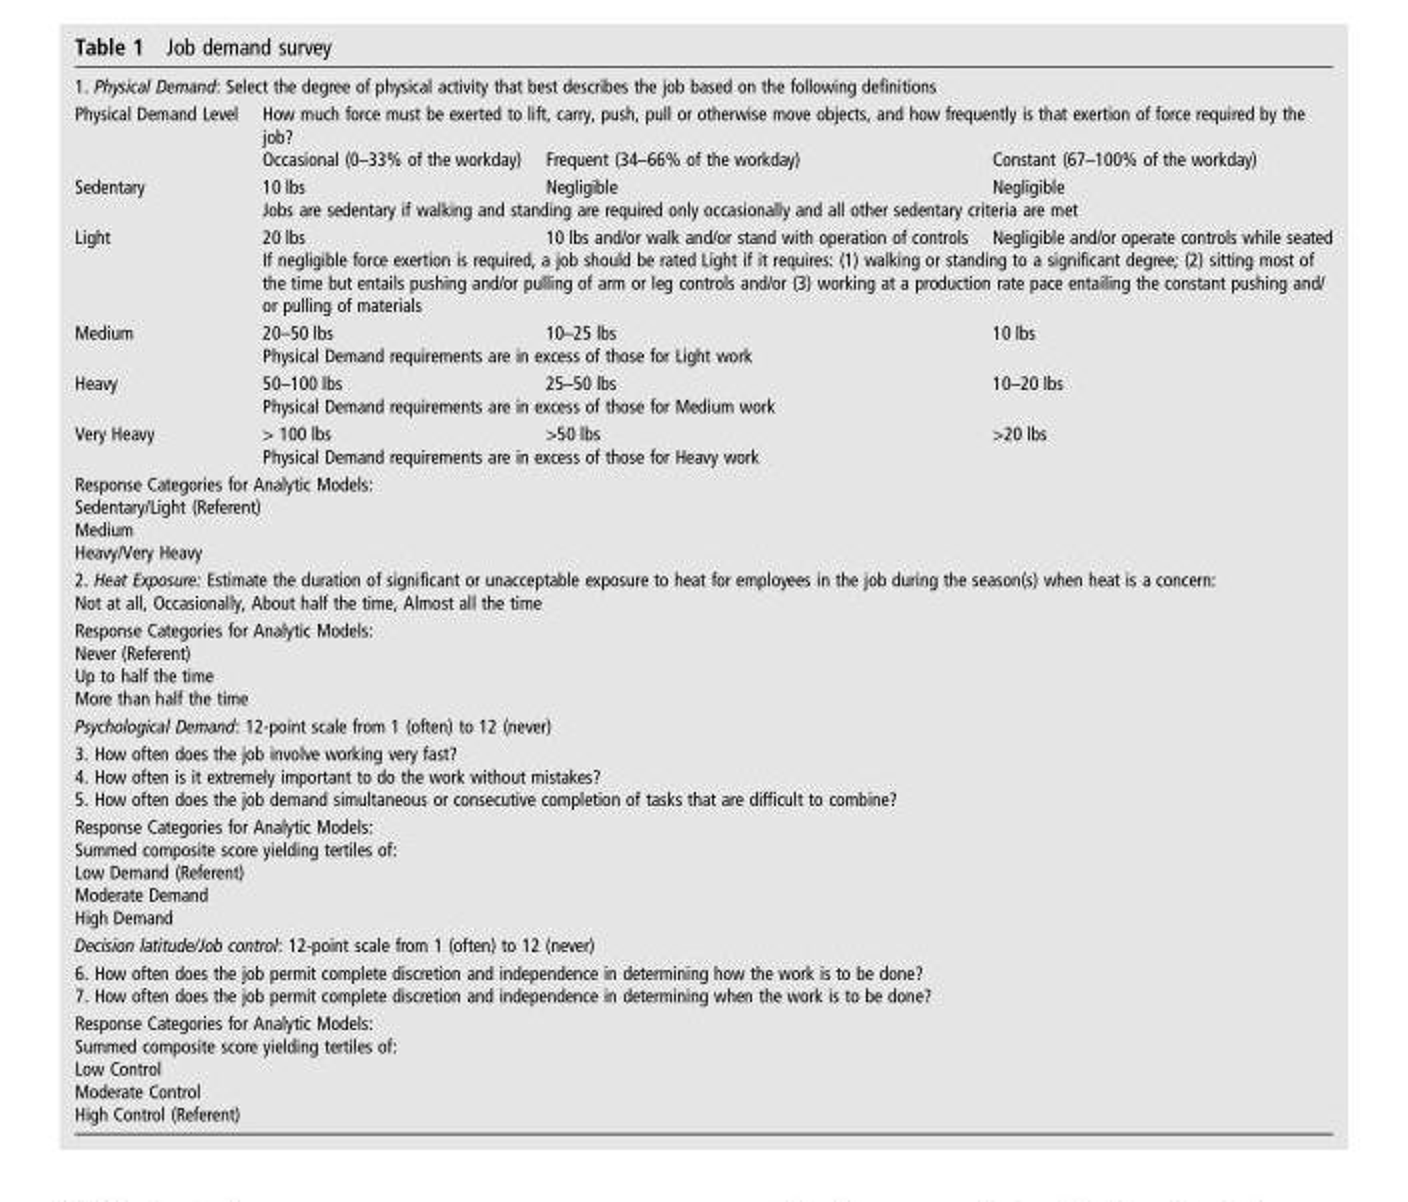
<table><tbody><tr><td colspan="4">1. Physical Demand: Select the degree of physical activity that best describes the job based on the following definitions</td></tr><tr><td rowspan="2">Physical Demand Level</td><td colspan="3">How much force must be exerted to lift, carry, push, pull or otherwise move objects, and how frequently is that exertion of force required by the job?</td></tr><tr><td>Occasional (0–33% of the workday)</td><td>Frequent (34–66% of the workday)</td><td>Constant (67–100% of the workday)</td></tr><tr><td rowspan="2">Sedentary</td><td>10 lbs</td><td>Negligible</td><td>Negligible</td></tr><tr><td colspan="3">Jobs are sedentary if walking and standing are required only occasionally and all other sedentary criteria are met</td></tr><tr><td rowspan="2">Light</td><td>20 lbs</td><td>10 lbs and/or walk and/or stand with operation of controls</td><td>Negligible and/or operate controls while seated</td></tr><tr><td colspan="3">If negligible force exertion is required, a job should be rated Light if it requires: (1) walking or standing to a significant degree; (2) sitting most of the time but entails pushing and/or pulling of arm or leg controls and/or (3) working at a production rate pace entailing the constant pushing and/ or pulling of materials</td></tr><tr><td rowspan="2">Medium</td><td>20–50 lbs</td><td>10–25 lbs</td><td>10 lbs</td></tr><tr><td colspan="3">Physical Demand requirements are in excess of those for Light work</td></tr><tr><td rowspan="2">Heavy</td><td>50–100 lbs</td><td>25–50 lbs</td><td>10–20 lbs</td></tr><tr><td colspan="3">Physical Demand requirements are in excess of those for Medium work</td></tr><tr><td rowspan="2">Very Heavy</td><td>&gt; 100 lbs</td><td>&gt;50 lbs</td><td>&gt;20 lbs</td></tr><tr><td colspan="3">Physical Demand requirements are in excess of those for Heavy work</td></tr><tr><td colspan="4">Response Categories for Analytic Models: Sedentary/Light (Referent) Medium Heavy/Very Heavy</td></tr><tr><td colspan="4">2. Heat Exposure: Estimate the duration of significant or unacceptable exposure to heat for employees in the job during the season(s) when heat is a concern: Not at all, Occasionally, About half the time, Almost all the time</td></tr><tr><td colspan="4">Response Categories for Analytic Models: Never (Referent) Up to half the time More than half the time</td></tr><tr><td colspan="4">Psychological Demand: 12-point scale from 1 (often) to 12 (never)</td></tr><tr><td colspan="4">3. How often does the job involve working very fast? 4. How often is it extremely important to do the work without mistakes? 5. How often does the job demand simultaneous or consecutive completion of tasks that are difficult to combine?</td></tr><tr><td colspan="4">Response Categories for Analytic Models: Summed composite score yielding tertiles of: Low Demand (Referent) Moderate Demand High Demand</td></tr><tr><td colspan="4">Decision latitude/Job control: 12-point scale from 1 (often) to 12 (never)</td></tr><tr><td colspan="4">6. How often does the job permit complete discretion and independence in determining how the work is to be done? 7. How often does the job permit complete discretion and independence in determining when the work is to be done?</td></tr><tr><td colspan="4">Response Categories for Analytic Models: Summed composite score yielding tertiles of: Low Control Moderate Control High Control (Referent)</td></tr></tbody></table>